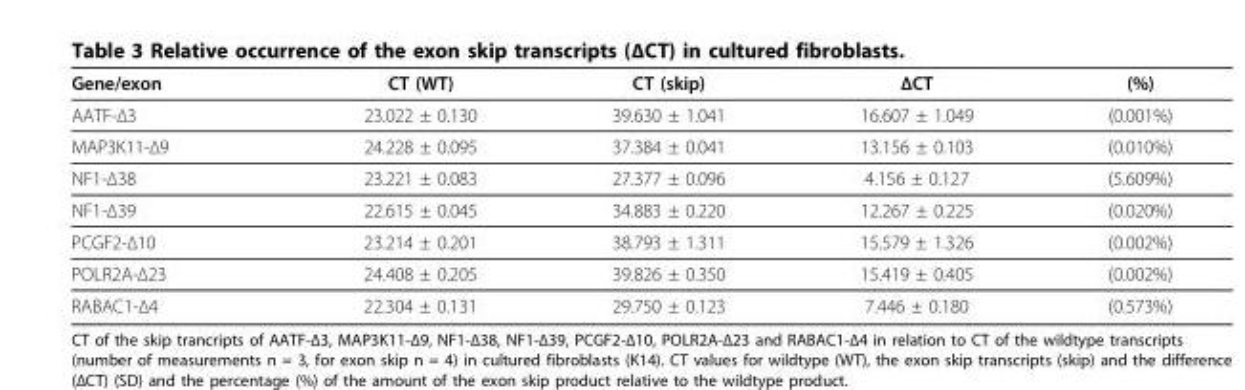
<table><thead><tr><td>Gene/exon</td><td>CT (WT)</td><td>CT (skip)</td><td>ΔCT</td><td>(%)</td></tr></thead><tbody><tr><td>AATF-Δ3</td><td>23.022 ± 0.130</td><td>39.630 ± 1.041</td><td>16.607 ± 1.049</td><td>(0.001%)</td></tr><tr><td>MAP3K11-Δ9</td><td>24.228 ± 0.095</td><td>37.384 ± 0.041</td><td>13.156 ± 0.103</td><td>(0.010%)</td></tr><tr><td>NF1-Δ38</td><td>23.221 ± 0.083</td><td>27.377 ± 0.096</td><td>4.156 ± 0.127</td><td>(5.609%)</td></tr><tr><td>NF1-Δ39</td><td>22.615 ± 0.045</td><td>34.883 ± 0.220</td><td>12.267 ± 0.225</td><td>(0.020%)</td></tr><tr><td>PCGF2-Δ10</td><td>23.214 ± 0.201</td><td>38.793 ± 1.311</td><td>15.579 ± 1.326</td><td>(0.002%)</td></tr><tr><td>POLR2A-Δ23</td><td>24.408 ± 0.205</td><td>39.826 ± 0.350</td><td>15.419 ± 0.405</td><td>(0.002%)</td></tr><tr><td>RABAC1-Δ4</td><td>22.304 ± 0.131</td><td>29.750 ± 0.123</td><td>7.446 ± 0.180</td><td>(0.573%)</td></tr></tbody></table>